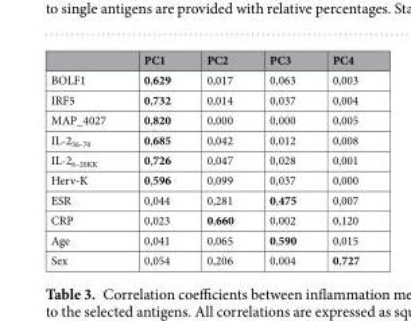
<table><thead><tr><td></td><td>PC1</td><td>PC2</td><td>PC3</td><td>PC4</td></tr></thead><tbody><tr><td>BOLF1</td><td>0,629</td><td>0,017</td><td>0,063</td><td>0,003</td></tr><tr><td>IRF5</td><td>0,732</td><td>0,014</td><td>0,037</td><td>0,004</td></tr><tr><td>MAP_4027</td><td>0,820</td><td>0,000</td><td>0,000</td><td>0,005</td></tr><tr><td>IL-2<sub>56–70</sub></td><td>0,685</td><td>0,042</td><td>0,012</td><td>0,008</td></tr><tr><td>IL-2<sub>6–20KK</sub></td><td>0,726</td><td>0,047</td><td>0,028</td><td>0,001</td></tr><tr><td>Herv-K</td><td>0,596</td><td>0,099</td><td>0,037</td><td>0,000</td></tr><tr><td>ESR</td><td>0,044</td><td>0,281</td><td>0,475</td><td>0,007</td></tr><tr><td>CRP</td><td>0,023</td><td>0,660</td><td>0,002</td><td>0,120</td></tr><tr><td>Age</td><td>0,041</td><td>0,065</td><td>0,590</td><td>0,015</td></tr><tr><td>Sex</td><td>0,054</td><td>0,206</td><td>0,004</td><td>0,727</td></tr></tbody></table>